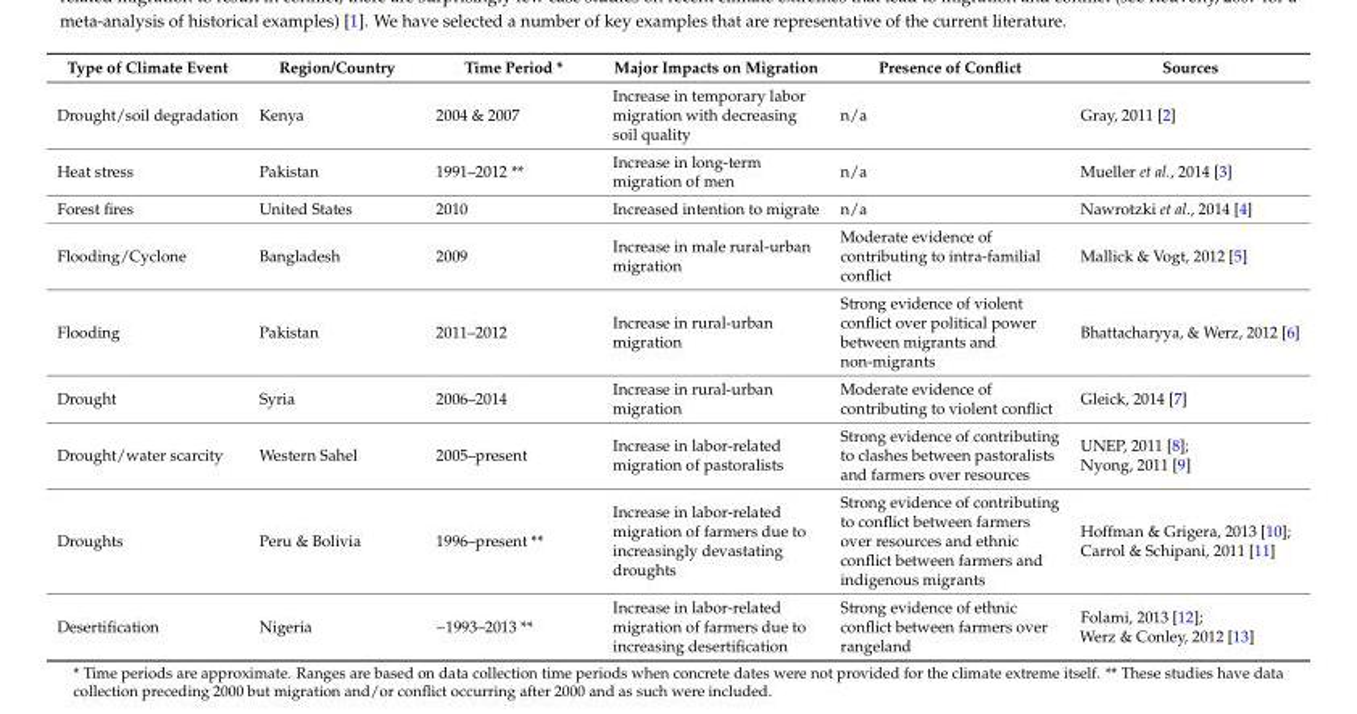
<table><thead><tr><td>Type of Climate Event</td><td>Region/Country</td><td>Time Period *</td><td>Major Impacts on Migration</td><td>Presence of Conflict</td><td>Sources</td></tr></thead><tbody><tr><td>Drought/soil degradation</td><td>Kenya</td><td>2004 &amp; 2007</td><td>Increase in temporary labor migration with decreasing soil quality</td><td>n/a</td><td>Gray, 2011 [2]</td></tr><tr><td>Heat stress</td><td>Pakistan</td><td>1991–2012 **</td><td>Increase in long-term migration of men</td><td>n/a</td><td>Mueller et al., 2014 [3]</td></tr><tr><td>Forest fires</td><td>United States</td><td>2010</td><td>Increased intention to migrate</td><td>n/a</td><td>Nawrotzki et al., 2014 [4]</td></tr><tr><td>Flooding/Cyclone</td><td>Bangladesh</td><td>2009</td><td>Increase in male rural-urban migration</td><td>Moderate evidence of contributing to intra-familial conflict</td><td>Mallick &amp; Vogt, 2012 [5]</td></tr><tr><td>Flooding</td><td>Pakistan</td><td>2011–2012</td><td>Increase in rural-urban migration</td><td>Strong evidence of violent conflict over political power between migrants and non-migrants</td><td>Bhattacharyya, &amp; Werz, 2012 [6]</td></tr><tr><td>Drought</td><td>Syria</td><td>2006–2014</td><td>Increase in rural-urban migration</td><td>Moderate evidence of contributing to violent conflict</td><td>Gleick, 2014 [7]</td></tr><tr><td>Drought/water scarcity</td><td>Western Sahel</td><td>2005–present</td><td>Increase in labor-related migration of pastoralists</td><td>Strong evidence of contributing to clashes between pastoralists and farmers over resources</td><td>UNEP, 2011 [8]; Nyong, 2011 [9]</td></tr><tr><td>Droughts</td><td>Peru &amp; Bolivia</td><td>1996–present **</td><td>Increase in labor-related migration of farmers due to increasingly devastating droughts</td><td>Strong evidence of contributing to conflict between farmers over resources and ethnic conflict between farmers and indigenous migrants</td><td>Hoffman &amp; Grigera, 2013 [10]; Carrol &amp; Schipani, 2011 [11]</td></tr><tr><td>Desertification</td><td>Nigeria</td><td>~1993–2013 **</td><td>Increase in labor-related migration of farmers due to increasing desertification</td><td>Strong evidence of ethnic conflict between farmers over rangeland</td><td>Folami, 2013 [12]; Werz &amp; Conley, 2012 [13]</td></tr></tbody></table>